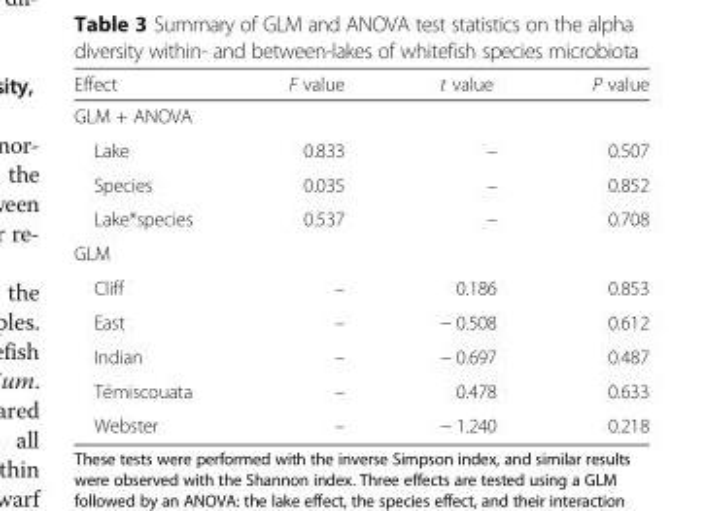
<table><thead><tr><td>Effect</td><td>F value</td><td>t value</td><td>P value</td></tr></thead><tbody><tr><td colspan="4">GLM + ANOVA</td></tr><tr><td>Lake</td><td>0.833</td><td>–</td><td>0.507</td></tr><tr><td>Species</td><td>0.035</td><td>–</td><td>0.852</td></tr><tr><td>Lake*species</td><td>0.537</td><td>–</td><td>0.708</td></tr><tr><td colspan="4">GLM</td></tr><tr><td>Cliff</td><td>–</td><td>0.186</td><td>0.853</td></tr><tr><td>East</td><td>–</td><td>− 0.508</td><td>0.612</td></tr><tr><td>Indian</td><td>–</td><td>− 0.697</td><td>0.487</td></tr><tr><td>Témiscouata</td><td>–</td><td>0.478</td><td>0.633</td></tr><tr><td>Webster</td><td>–</td><td>− 1.240</td><td>0.218</td></tr></tbody></table>